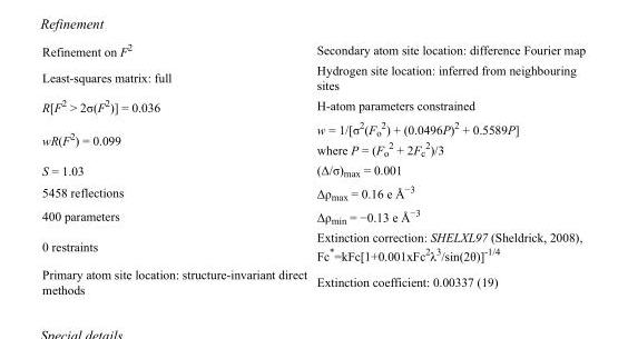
<table><tbody><tr><td>Refinement on F<sup>2</sup></td><td>Secondary atom site location: difference Fourier map</td></tr><tr><td>Least-squares matrix: full</td><td>Hydrogen site location: inferred from neighbouring sites</td></tr><tr><td>R[F<sup>2</sup> &gt; 2σ(F<sup>2</sup>)] = 0.036</td><td>H-atom parameters constrained</td></tr><tr><td>wR(F<sup>2</sup>) = 0.099</td><td>w = 1/[σ<sup>2</sup>(F<sub>o</sub> <sup>2</sup>) + (0.0496P)<sup>2</sup> + 0.5589P] where P = (F<sub>o</sub> <sup>2</sup> + 2F<sub>c</sub> <sup>2</sup>)/3</td></tr><tr><td>S = 1.03</td><td>(Δ/σ)<sub>max</sub> = 0.001</td></tr><tr><td>5458 reflections</td><td>Δρ<sub>max</sub> = 0.16 e Å<sup>−3</sup></td></tr><tr><td>400 parameters</td><td>Δρ<sub>min</sub> = −0.13 e Å<sup>−3</sup></td></tr><tr><td>0 restraints</td><td>Extinction correction: SHELXL97 (Sheldrick, 2008), Fc*=kFc[1+0.001xFc<sup>2</sup>λ<sup>3</sup>/sin(2θ)]<sup>-1/4</sup></td></tr><tr><td>Primary atom site location: structure-invariant direct methods</td><td>Extinction coefficient: 0.00337 (19)</td></tr></tbody></table>